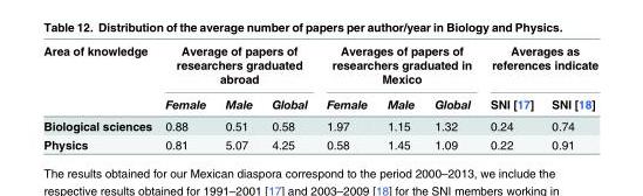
<table><thead><tr><td rowspan="2">Area of knowledge</td><td colspan="3">Average of papers of researchers graduated abroad</td><td colspan="3">Averages of papers of researchers graduated in Mexico</td><td colspan="2">Averages as references indicate</td></tr><tr><td>Female</td><td>Male</td><td>Global</td><td>Female</td><td>Male</td><td>Global</td><td>SNI [17]</td><td>SNI [18]</td></tr></thead><tbody><tr><td>Biological sciences</td><td>0.88</td><td>0.51</td><td>0.58</td><td>1.97</td><td>1.15</td><td>1.32</td><td>0.24</td><td>0.74</td></tr><tr><td>Physics</td><td>0.81</td><td>5.07</td><td>4.25</td><td>0.58</td><td>1.45</td><td>1.09</td><td>0.22</td><td>0.91</td></tr></tbody></table>